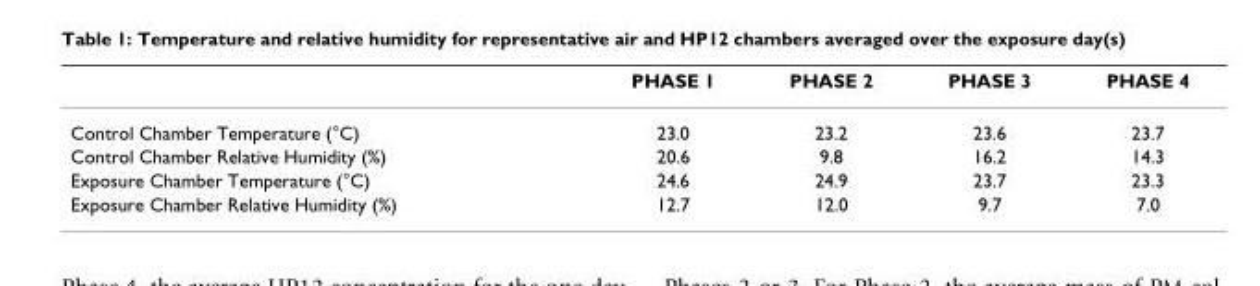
<table><thead><tr><td></td><td>PHASE 1</td><td>PHASE 2</td><td>PHASE 3</td><td>PHASE 4</td></tr></thead><tbody><tr><td>Control Chamber Temperature (°C)</td><td>23.0</td><td>23.2</td><td>23.6</td><td>23.7</td></tr><tr><td>Control Chamber Relative Humidity (%)</td><td>20.6</td><td>9.8</td><td>16.2</td><td>14.3</td></tr><tr><td>Exposure Chamber Temperature (°C)</td><td>24.6</td><td>24.9</td><td>23.7</td><td>23.3</td></tr><tr><td>Exposure Chamber Relative Humidity (%)</td><td>12.7</td><td>12.0</td><td>9.7</td><td>7.0</td></tr></tbody></table>